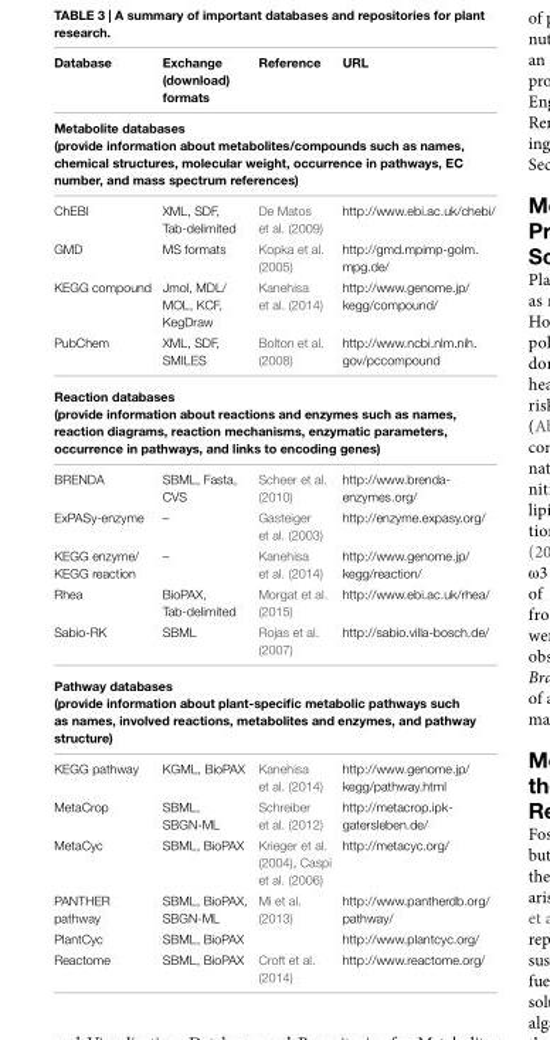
<table><thead><tr><td>Database</td><td>exchange (download) formats</td><td>Reference</td><td>URL</td></tr></thead><tbody><tr><td colspan="4">Metabolite databases (provide information about metabolites/compounds such as names, chemical structures, molecular weight, occurrence in pathways, eC number, and mass spectrum references)</td></tr><tr><td>ChEBI</td><td>XML, SDF, Tab-delimited</td><td>De Matos et al. (2009)</td><td>http://www.ebi.ac.uk/chebi/</td></tr><tr><td>GMD</td><td>MS formats</td><td>Kopka et al. (2005)</td><td>http://gmd.mpimp-golm. mpg.de/</td></tr><tr><td>KEGG compound</td><td>Jmol, MDL/ MOL, KCF, KegDraw</td><td>Kanehisa et al. (2014)</td><td>http://www.genome.jp/ kegg/compound/</td></tr><tr><td>PubChem</td><td>XML, SDF, SMILES</td><td>Bolton et al. (2008)</td><td>http://www.ncbi.nlm.nih. gov/pccompound</td></tr><tr><td colspan="4">Reaction databases (provide information about reactions and enzymes such as names, reaction diagrams, reaction mechanisms, enzymatic parameters, occurrence in pathways, and links to encoding genes)</td></tr><tr><td>BRENDA</td><td>SBML, Fasta, CVS</td><td>Scheer et al. (2010)</td><td>http://www.brenda- enzymes.org/</td></tr><tr><td>ExPASy-enzyme</td><td>–</td><td>Gasteiger et al. (2003)</td><td>http://enzyme.expasy.org/</td></tr><tr><td>KEGG enzyme/ KEGG reaction</td><td>–</td><td>Kanehisa et al. (2014)</td><td>http://www.genome.jp/ kegg/reaction/</td></tr><tr><td>Rhea</td><td>BioPAX, Tab-delimited</td><td>Morgat et al. (2015)</td><td>http://www.ebi.ac.uk/rhea/</td></tr><tr><td>Sabio-RK</td><td>SBML</td><td>Rojas et al. (2007)</td><td>http://sabio.villa-bosch.de/</td></tr><tr><td colspan="4">Pathway databases (provide information about plant-specific metabolic pathways such as names, involved reactions, metabolites and enzymes, and pathway structure)</td></tr><tr><td>KEGG pathway</td><td>KGML, BioPAX</td><td>Kanehisa et al. (2014)</td><td>http://www.genome.jp/ kegg/pathway.html</td></tr><tr><td>MetaCrop</td><td>SBML, SBGN-ML</td><td>Schreiber et al. (2012)</td><td>http://metacrop.ipk- gatersleben.de/</td></tr><tr><td>MetaCyc</td><td>SBML, BioPAX</td><td>Krieger et al. (2004), Caspi et al. (2006)</td><td>http://metacyc.org/</td></tr><tr><td>PANTHER pathway</td><td>SBML, BioPAX, SBGN-ML</td><td>Mi et al. (2013)</td><td>http://www.pantherdb.org/ pathway/</td></tr><tr><td>PlantCyc</td><td>SBML, BioPAX</td><td></td><td>http://www.plantcyc.org/</td></tr><tr><td>Reactome</td><td>SBML, BioPAX</td><td>Croft et al. (2014)</td><td>http://www.reactome.org/</td></tr></tbody></table>